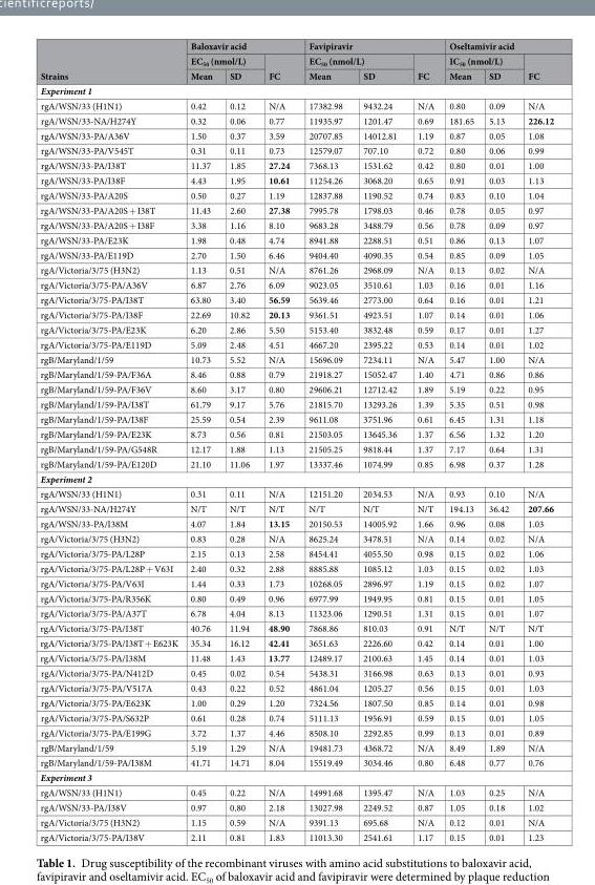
<table><thead><tr><td rowspan="3">Strains</td><td colspan="3">Baloxavir acid</td><td colspan="3">Favipiravir</td><td colspan="3">Oseltamivir acid</td></tr><tr><td colspan="2">EC<sub>50</sub> (nmol/L)</td><td rowspan="2">FC</td><td colspan="2">EC<sub>50</sub> (nmol/L)</td><td rowspan="2">FC</td><td colspan="2">IC<sub>50</sub> (nmol/L)</td><td rowspan="2">FC</td></tr><tr><td>Mean</td><td>SD</td><td>Mean</td><td>SD</td><td>Mean</td><td>SD</td></tr></thead><tbody><tr><td colspan="10">Experiment 1</td></tr><tr><td>rgA/WSN/33 (H1N1)</td><td>0.42</td><td>0.12</td><td>N/A</td><td>17382.98</td><td>9432.24</td><td>N/A</td><td>0.80</td><td>0.09</td><td>N/A</td></tr><tr><td>rgA/WSN/33-NA/H274Y</td><td>0.32</td><td>0.06</td><td>0.77</td><td>11935.97</td><td>1201.47</td><td>0.69</td><td>181.65</td><td>5.13</td><td>226.12</td></tr><tr><td>rgA/WSN/33-PA/A36V</td><td>1.50</td><td>0.37</td><td>3.59</td><td>20707.85</td><td>14012.81</td><td>1.19</td><td>0.87</td><td>0.05</td><td>1.08</td></tr><tr><td>rgA/WSN/33-PA/V545T</td><td>0.31</td><td>0.11</td><td>0.73</td><td>12579.07</td><td>707.10</td><td>0.72</td><td>0.80</td><td>0.06</td><td>0.99</td></tr><tr><td>rgA/WSN/33-PA/I38T</td><td>11.37</td><td>1.85</td><td>27.24</td><td>7368.13</td><td>1531.62</td><td>0.42</td><td>0.80</td><td>0.01</td><td>1.00</td></tr><tr><td>rgA/WSN/33-PA/I38F</td><td>4.43</td><td>1.95</td><td>10.61</td><td>11254.26</td><td>3068.20</td><td>0.65</td><td>0.91</td><td>0.03</td><td>1.13</td></tr><tr><td>rgA/WSN/33-PA/A20S</td><td>0.50</td><td>0.27</td><td>1.19</td><td>12837.88</td><td>1190.52</td><td>0.74</td><td>0.83</td><td>0.10</td><td>1.04</td></tr><tr><td>rgA/WSN/33-PA/A20S + I38T</td><td>11.43</td><td>2.60</td><td>27.38</td><td>7995.78</td><td>1798.03</td><td>0.46</td><td>0.78</td><td>0.05</td><td>0.97</td></tr><tr><td>rgA/WSN/33-PA/A20S + I38F</td><td>3.38</td><td>1.16</td><td>8.10</td><td>9683.28</td><td>3488.79</td><td>0.56</td><td>0.78</td><td>0.09</td><td>0.97</td></tr><tr><td>rgA/WSN/33-PA/E23K</td><td>1.98</td><td>0.48</td><td>4.74</td><td>8941.88</td><td>2288.51</td><td>0.51</td><td>0.86</td><td>0.13</td><td>1.07</td></tr><tr><td>rgA/WSN/33-PA/E119D</td><td>2.70</td><td>1.50</td><td>6.46</td><td>9404.40</td><td>4090.35</td><td>0.54</td><td>0.85</td><td>0.09</td><td>1.05</td></tr><tr><td>rgA/Victoria/3/75 (H3N2)</td><td>1.13</td><td>0.51</td><td>N/A</td><td>8761.26</td><td>2968.09</td><td>N/A</td><td>0.13</td><td>0.02</td><td>N/A</td></tr><tr><td>rgA/Victoria/3/75-PA/A36V</td><td>6.87</td><td>2.76</td><td>6.09</td><td>9023.05</td><td>3510.61</td><td>1.03</td><td>0.16</td><td>0.01</td><td>1.16</td></tr><tr><td>rgA/Victoria/3/75-PA/I38T</td><td>63.80</td><td>3.40</td><td>56.59</td><td>5639.46</td><td>2773.00</td><td>0.64</td><td>0.16</td><td>0.01</td><td>1.21</td></tr><tr><td>rgA/Victoria/3/75-PA/I38F</td><td>22.69</td><td>10.82</td><td>20.13</td><td>9361.51</td><td>4923.51</td><td>1.07</td><td>0.14</td><td>0.01</td><td>1.06</td></tr><tr><td>rgA/Victoria/3/75-PA/E23K</td><td>6.20</td><td>2.86</td><td>5.50</td><td>5153.40</td><td>3832.48</td><td>0.59</td><td>0.17</td><td>0.01</td><td>1.27</td></tr><tr><td>rgA/Victoria/3/75-PA/E119D</td><td>5.09</td><td>2.48</td><td>4.51</td><td>4667.20</td><td>2395.22</td><td>0.53</td><td>0.14</td><td>0.01</td><td>1.02</td></tr><tr><td>rgB/Maryland/1/59</td><td>10.73</td><td>5.52</td><td>N/A</td><td>15696.09</td><td>7234.11</td><td>N/A</td><td>5.47</td><td>1.00</td><td>N/A</td></tr><tr><td>rgB/Maryland/1/59-PA/F36A</td><td>8.46</td><td>0.88</td><td>0.79</td><td>21918.27</td><td>15052.47</td><td>1.40</td><td>4.71</td><td>0.86</td><td>0.86</td></tr><tr><td>rgB/Maryland/1/59-PA/F36V</td><td>8.60</td><td>3.17</td><td>0.80</td><td>29606.21</td><td>12712.42</td><td>1.89</td><td>5.19</td><td>0.22</td><td>0.95</td></tr><tr><td>rgB/Maryland/1/59-PA/I38T</td><td>61.79</td><td>9.17</td><td>5.76</td><td>21815.70</td><td>13293.26</td><td>1.39</td><td>5.35</td><td>0.51</td><td>0.98</td></tr><tr><td>rgB/Maryland/1/59-PA/I38F</td><td>25.59</td><td>0.54</td><td>2.39</td><td>9611.08</td><td>3751.96</td><td>0.61</td><td>6.45</td><td>1.31</td><td>1.18</td></tr><tr><td>rgB/Maryland/1/59-PA/E23K</td><td>8.73</td><td>0.56</td><td>0.81</td><td>21503.05</td><td>13645.36</td><td>1.37</td><td>6.56</td><td>1.32</td><td>1.20</td></tr><tr><td>rgB/Maryland/1/59-PA/G548R</td><td>12.17</td><td>1.88</td><td>1.13</td><td>21505.25</td><td>9818.44</td><td>1.37</td><td>7.17</td><td>0.64</td><td>1.31</td></tr><tr><td>rgB/Maryland/1/59-PA/E120D</td><td>21.10</td><td>11.06</td><td>1.97</td><td>13337.46</td><td>1074.99</td><td>0.85</td><td>6.98</td><td>0.37</td><td>1.28</td></tr><tr><td colspan="10">Experiment 2</td></tr><tr><td>rgA/WSN/33 (H1N1)</td><td>0.31</td><td>0.11</td><td>N/A</td><td>12151.20</td><td>2034.53</td><td>N/A</td><td>0.93</td><td>0.10</td><td>N/A</td></tr><tr><td>rgA/WSN/33-NA/H274Y</td><td>N/T</td><td>N/T</td><td>N/T</td><td>N/T</td><td>N/T</td><td>N/T</td><td>194.13</td><td>36.42</td><td>207.66</td></tr><tr><td>rgA/WSN/33-PA/I38M</td><td>4.07</td><td>1.84</td><td>13.15</td><td>20150.53</td><td>14005.92</td><td>1.66</td><td>0.96</td><td>0.08</td><td>1.03</td></tr><tr><td>rgA/Victoria/3/75 (H3N2)</td><td>0.83</td><td>0.28</td><td>N/A</td><td>8625.24</td><td>3478.51</td><td>N/A</td><td>0.14</td><td>0.02</td><td>N/A</td></tr><tr><td>rgA/Victoria/3/75-PA/L28P</td><td>2.15</td><td>0.13</td><td>2.58</td><td>8454.41</td><td>4055.50</td><td>0.98</td><td>0.15</td><td>0.02</td><td>1.06</td></tr><tr><td>rgA/Victoria/3/75-PA/L28P + V63I</td><td>2.40</td><td>0.32</td><td>2.88</td><td>8885.88</td><td>1085.12</td><td>1.03</td><td>0.15</td><td>0.02</td><td>1.03</td></tr><tr><td>rgA/Victoria/3/75-PA/V63I</td><td>1.44</td><td>0.33</td><td>1.73</td><td>10268.05</td><td>2896.97</td><td>1.19</td><td>0.15</td><td>0.02</td><td>1.07</td></tr><tr><td>rgA/Victoria/3/75-PA/R356K</td><td>0.80</td><td>0.49</td><td>0.96</td><td>6977.99</td><td>1949.95</td><td>0.81</td><td>0.15</td><td>0.01</td><td>1.05</td></tr><tr><td>rgA/Victoria/3/75-PA/A37T</td><td>6.78</td><td>4.04</td><td>8.13</td><td>11323.06</td><td>1290.51</td><td>1.31</td><td>0.15</td><td>0.01</td><td>1.07</td></tr><tr><td>rgA/Victoria/3/75-PA/I38T</td><td>40.76</td><td>11.94</td><td>48.90</td><td>7868.86</td><td>810.03</td><td>0.91</td><td>N/T</td><td>N/T</td><td>N/T</td></tr><tr><td>rgA/Victoria/3/75-PA/I38T + E623K</td><td>35.34</td><td>16.12</td><td>42.41</td><td>3651.63</td><td>2226.60</td><td>0.42</td><td>0.14</td><td>0.01</td><td>1.00</td></tr><tr><td>rgA/Victoria/3/75-PA/I38M</td><td>11.48</td><td>1.43</td><td>13.77</td><td>12489.17</td><td>2100.63</td><td>1.45</td><td>0.14</td><td>0.01</td><td>1.03</td></tr><tr><td>rgA/Victoria/3/75-PA/N412D</td><td>0.45</td><td>0.02</td><td>0.54</td><td>5438.31</td><td>3166.98</td><td>0.63</td><td>0.13</td><td>0.01</td><td>0.93</td></tr><tr><td>rgA/Victoria/3/75-PA/V517A</td><td>0.43</td><td>0.22</td><td>0.52</td><td>4861.04</td><td>1205.27</td><td>0.56</td><td>0.15</td><td>0.01</td><td>1.03</td></tr><tr><td>rgA/Victoria/3/75-PA/E623K</td><td>1.00</td><td>0.29</td><td>1.20</td><td>7324.56</td><td>1807.50</td><td>0.85</td><td>0.14</td><td>0.01</td><td>0.98</td></tr><tr><td>rgA/Victoria/3/75-PA/S632P</td><td>0.61</td><td>0.28</td><td>0.74</td><td>5111.13</td><td>1956.91</td><td>0.59</td><td>0.15</td><td>0.01</td><td>1.05</td></tr><tr><td>rgA/Victoria/3/75-PA/E199G</td><td>3.72</td><td>1.37</td><td>4.46</td><td>8508.10</td><td>2292.85</td><td>0.99</td><td>0.13</td><td>0.01</td><td>0.89</td></tr><tr><td>rgB/Maryland/1/59</td><td>5.19</td><td>1.29</td><td>N/A</td><td>19481.73</td><td>4368.72</td><td>N/A</td><td>8.49</td><td>1.89</td><td>N/A</td></tr><tr><td>rgB/Maryland/1/59-PA/I38M</td><td>41.71</td><td>14.71</td><td>8.04</td><td>15519.49</td><td>3034.46</td><td>0.80</td><td>6.48</td><td>0.77</td><td>0.76</td></tr><tr><td colspan="10">Experiment 3</td></tr><tr><td>rgA/WSN/33 (H1N1)</td><td>0.45</td><td>0.22</td><td>N/A</td><td>14991.68</td><td>1395.47</td><td>N/A</td><td>1.03</td><td>0.25</td><td>N/A</td></tr><tr><td>rgA/WSN/33-PA/I38V</td><td>0.97</td><td>0.80</td><td>2.18</td><td>13027.98</td><td>2249.52</td><td>0.87</td><td>1.05</td><td>0.18</td><td>1.02</td></tr><tr><td>rgA/Victoria/3/75 (H3N2)</td><td>1.15</td><td>0.59</td><td>N/A</td><td>9391.13</td><td>695.68</td><td>N/A</td><td>0.12</td><td>0.01</td><td>N/A</td></tr><tr><td>rgA/Victoria/3/75-PA/I38V</td><td>2.11</td><td>0.81</td><td>1.83</td><td>11013.30</td><td>2541.61</td><td>1.17</td><td>0.15</td><td>0.01</td><td>1.23</td></tr></tbody></table>